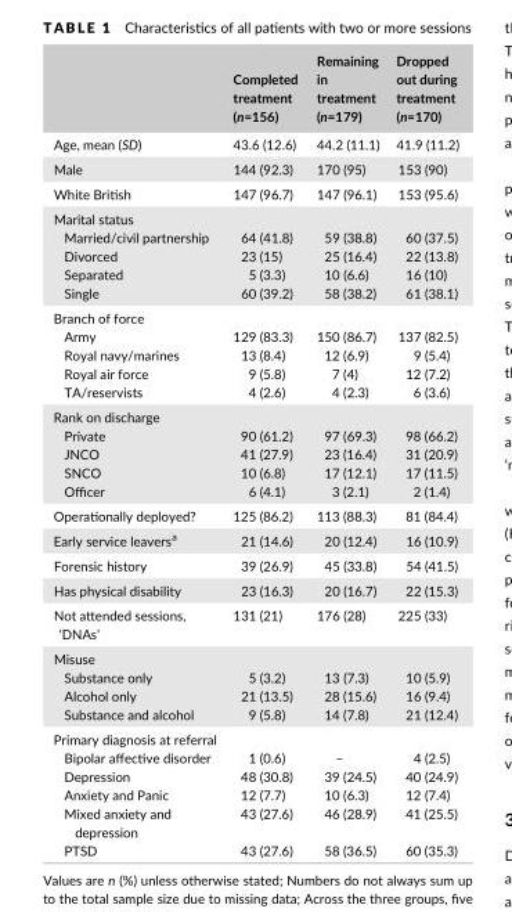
<table><thead><tr><td></td><td>Completed treatment (n=156)</td><td>Remaining in treatment (n=179)</td><td>Dropped out during treatment (n=170)</td></tr></thead><tbody><tr><td>Age, mean (SD)</td><td>43.6 (12.6)</td><td>44.2 (11.1)</td><td>41.9 (11.2)</td></tr><tr><td>Male</td><td>144 (92.3)</td><td>170 (95)</td><td>153 (90)</td></tr><tr><td>White British</td><td>147 (96.7)</td><td>147 (96.1)</td><td>153 (95.6)</td></tr><tr><td colspan="4">Marital status</td></tr><tr><td>Married/civil partnership</td><td>64 (41.8)</td><td>59 (38.8)</td><td>60 (37.5)</td></tr><tr><td>Divorced</td><td>23 (15)</td><td>25 (16.4)</td><td>22 (13.8)</td></tr><tr><td>Separated</td><td>5 (3.3)</td><td>10 (6.6)</td><td>16 (10)</td></tr><tr><td>Single</td><td>60 (39.2)</td><td>58 (38.2)</td><td>61 (38.1)</td></tr><tr><td colspan="4">Branch of force</td></tr><tr><td>Army</td><td>129 (83.3)</td><td>150 (86.7)</td><td>137 (82.5)</td></tr><tr><td>Royal navy/marines</td><td>13 (8.4)</td><td>12 (6.9)</td><td>9 (5.4)</td></tr><tr><td>Royal air force</td><td>9 (5.8)</td><td>7 (4)</td><td>12 (7.2)</td></tr><tr><td>TA/reservists</td><td>4 (2.6)</td><td>4 (2.3)</td><td>6 (3.6)</td></tr><tr><td colspan="4">Rank on discharge</td></tr><tr><td>Private</td><td>90 (61.2)</td><td>97 (69.3)</td><td>98 (66.2)</td></tr><tr><td>JNCO</td><td>41 (27.9)</td><td>23 (16.4)</td><td>31 (20.9)</td></tr><tr><td>SNCO</td><td>10 (6.8)</td><td>17 (12.1)</td><td>17 (11.5)</td></tr><tr><td>Officer</td><td>6 (4.1)</td><td>3 (2.1)</td><td>2 (1.4)</td></tr><tr><td>Operationally deployed?</td><td>125 (86.2)</td><td>113 (88.3)</td><td>81 (84.4)</td></tr><tr><td>Early service leavers<sup>a</sup></td><td>21 (14.6)</td><td>20 (12.4)</td><td>16 (10.9)</td></tr><tr><td>Forensic history</td><td>39 (26.9)</td><td>45 (33.8)</td><td>54 (41.5)</td></tr><tr><td>Has physical disability</td><td>23 (16.3)</td><td>20 (16.7)</td><td>22 (15.3)</td></tr><tr><td>Not attended sessions, ‘DNAs’</td><td>131 (21)</td><td>176 (28)</td><td>225 (33)</td></tr><tr><td colspan="4">Misuse</td></tr><tr><td>Substance only</td><td>5 (3.2)</td><td>13 (7.3)</td><td>10 (5.9)</td></tr><tr><td>Alcohol only</td><td>21 (13.5)</td><td>28 (15.6)</td><td>16 (9.4)</td></tr><tr><td>Substance and alcohol</td><td>9 (5.8)</td><td>14 (7.8)</td><td>21 (12.4)</td></tr><tr><td colspan="4">Primary diagnosis at referral</td></tr><tr><td>Bipolar affective disorder</td><td>1 (0.6)</td><td>–</td><td>4 (2.5)</td></tr><tr><td>Depression</td><td>48 (30.8)</td><td>39 (24.5)</td><td>40 (24.9)</td></tr><tr><td>Anxiety and Panic</td><td>12 (7.7)</td><td>10 (6.3)</td><td>12 (7.4)</td></tr><tr><td>Mixed anxiety and depression</td><td>43 (27.6)</td><td>46 (28.9)</td><td>41 (25.5)</td></tr><tr><td>PTSD</td><td>43 (27.6)</td><td>58 (36.5)</td><td>60 (35.3)</td></tr></tbody></table>